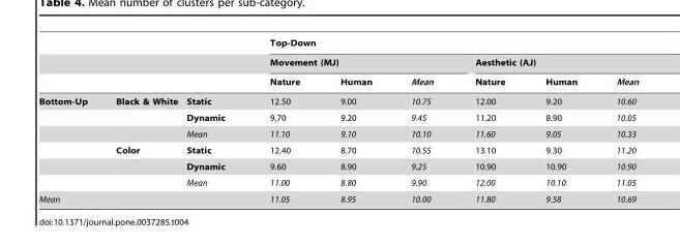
<table><thead><tr><td rowspan="3"></td><td rowspan="3"></td><td rowspan="3"></td><td colspan="6">Top-Down</td></tr><tr><td colspan="3">Movement (MJ)</td><td colspan="3">Aesthetic (AJ)</td></tr><tr><td>Nature</td><td>Human</td><td>Mean</td><td>Nature</td><td>Human</td><td>Mean</td></tr></thead><tbody><tr><td rowspan="6">Bottom-Up</td><td>Black &amp; White</td><td>Static</td><td>12.50</td><td>9.00</td><td>10.75</td><td>12.00</td><td>9.20</td><td>10.60</td></tr><tr><td></td><td>Dynamic</td><td>9.70</td><td>9.20</td><td>9.45</td><td>11.20</td><td>8.90</td><td>10.05</td></tr><tr><td></td><td>Mean</td><td>11.10</td><td>9.10</td><td>10.10</td><td>11.60</td><td>9.05</td><td>10.33</td></tr><tr><td>Color</td><td>Static</td><td>12.40</td><td>8.70</td><td>10.55</td><td>13.10</td><td>9.30</td><td>11.20</td></tr><tr><td></td><td>Dynamic</td><td>9.60</td><td>8.90</td><td>9.25</td><td>10.90</td><td>10.90</td><td>10.90</td></tr><tr><td></td><td>Mean</td><td>11.00</td><td>8.80</td><td>9.90</td><td>12.00</td><td>10.10</td><td>11.05</td></tr><tr><td colspan="3">Mean</td><td>11.05</td><td>8.95</td><td>10.00</td><td>11.80</td><td>9.58</td><td>10.69</td></tr></tbody></table>